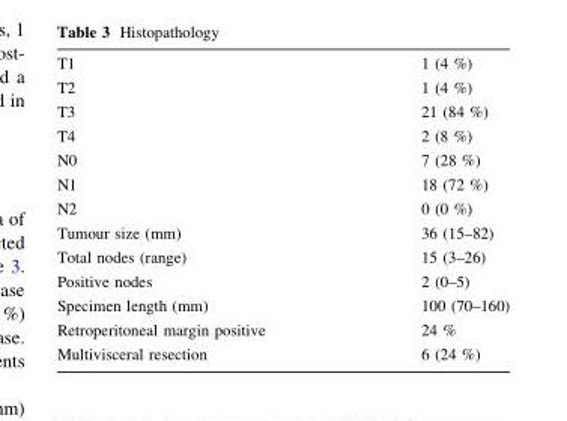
<table><tbody><tr><td>T1</td><td>1 (4 %)</td></tr><tr><td>T2</td><td>1 (4 %)</td></tr><tr><td>T3</td><td>21 (84 %)</td></tr><tr><td>T4</td><td>2 (8 %)</td></tr><tr><td>N0</td><td>7 (28 %)</td></tr><tr><td>N1</td><td>18 (72 %)</td></tr><tr><td>N2</td><td>0 (0 %)</td></tr><tr><td>Tumour size (mm)</td><td>36 (15–82)</td></tr><tr><td>Total nodes (range)</td><td>15 (3–26)</td></tr><tr><td>Positive nodes</td><td>2 (0–5)</td></tr><tr><td>Specimen length (mm)</td><td>100 (70–160)</td></tr><tr><td>Retroperitoneal margin positive</td><td>24 %</td></tr><tr><td>Multivisceral resection</td><td>6 (24 %)</td></tr></tbody></table>